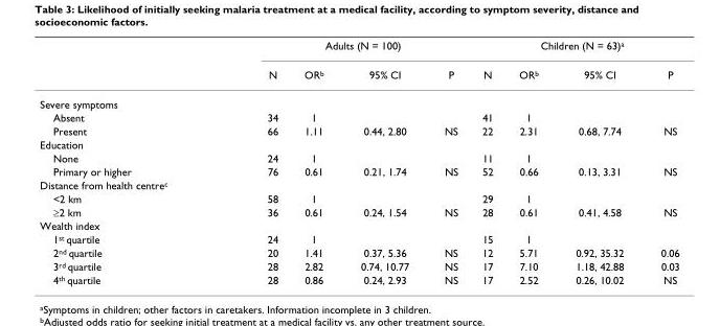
<table><thead><tr><td rowspan="2"></td><td colspan="4">Adults (N = 100)</td><td colspan="4">Children (N = 63)<sup>a</sup></td></tr><tr><td>N</td><td>OR<sup>b</sup></td><td>95% CI</td><td>P</td><td>N</td><td>OR<sup>b</sup></td><td>95% CI</td><td>P</td></tr></thead><tbody><tr><td colspan="9">Severe symptoms</td></tr><tr><td>Absent</td><td>34</td><td>1</td><td></td><td></td><td>41</td><td>1</td><td></td><td></td></tr><tr><td>Present</td><td>66</td><td>1.11</td><td>0.44, 2.80</td><td>NS</td><td>22</td><td>2.31</td><td>0.68, 7.74</td><td>NS</td></tr><tr><td colspan="9">Education</td></tr><tr><td>None</td><td>24</td><td>1</td><td></td><td></td><td>11</td><td>1</td><td></td><td></td></tr><tr><td>Primary or higher</td><td>76</td><td>0.61</td><td>0.21, 1.74</td><td>NS</td><td>52</td><td>0.66</td><td>0.13, 3.31</td><td>NS</td></tr><tr><td colspan="9">Distance from health centre<sup>c</sup></td></tr><tr><td>&lt;2 km</td><td>58</td><td>1</td><td></td><td></td><td>29</td><td>1</td><td></td><td></td></tr><tr><td>≥2 km</td><td>36</td><td>0.61</td><td>0.24, 1.54</td><td>NS</td><td>28</td><td>0.61</td><td>0.41, 4.58</td><td>NS</td></tr><tr><td colspan="9">Wealth index</td></tr><tr><td>1<sup>st</sup> quartile</td><td>24</td><td>1</td><td></td><td></td><td>15</td><td>1</td><td></td><td></td></tr><tr><td>2<sup>nd</sup> quartile</td><td>20</td><td>1.41</td><td>0.37, 5.36</td><td>NS</td><td>12</td><td>5.71</td><td>0.92, 35.32</td><td>0.06</td></tr><tr><td>3<sup>rd</sup> quartile</td><td>28</td><td>2.82</td><td>0.74, 10.77</td><td>NS</td><td>17</td><td>7.10</td><td>1.18, 42.88</td><td>0.03</td></tr><tr><td>4<sup>th</sup> quartile</td><td>28</td><td>0.86</td><td>0.24, 2.93</td><td>NS</td><td>17</td><td>2.52</td><td>0.26, 10.02</td><td>NS</td></tr></tbody></table>